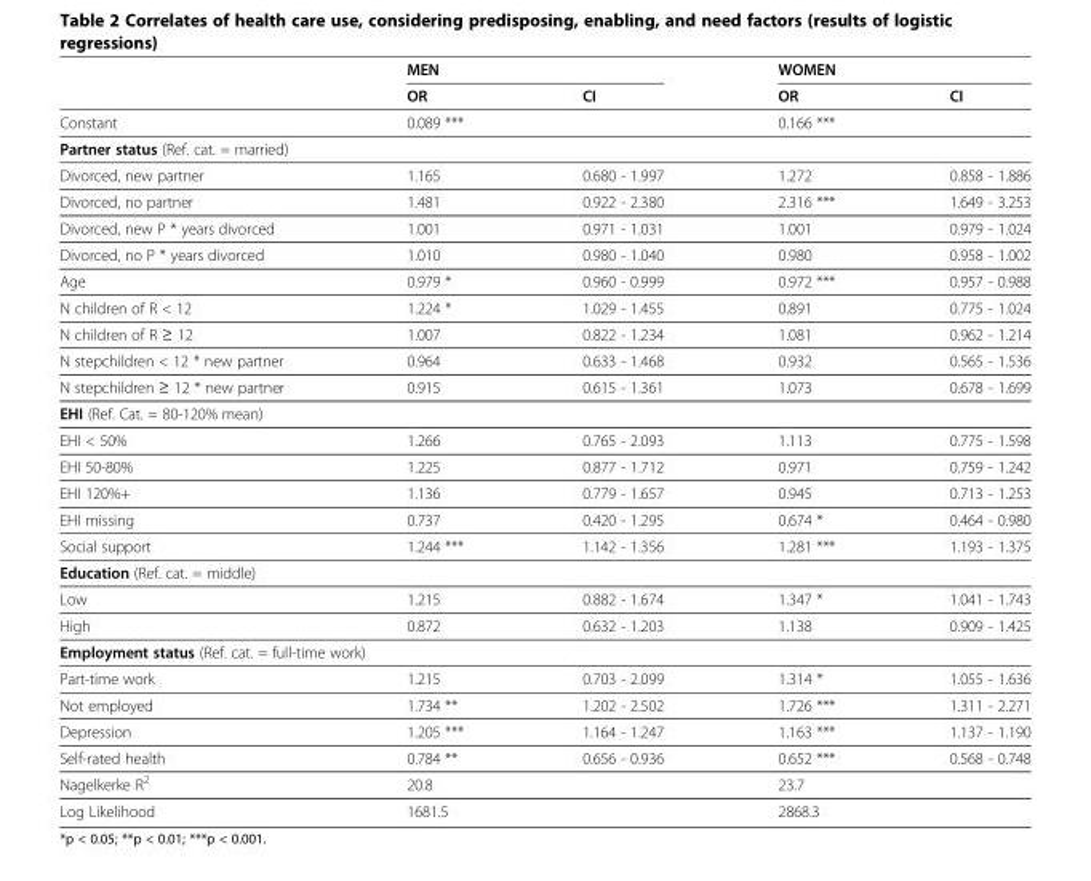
<table><thead><tr><td rowspan="2"></td><td colspan="2">MEN</td><td colspan="2">WOMEN</td></tr><tr><td>OR</td><td>CI</td><td>OR</td><td>CI</td></tr></thead><tbody><tr><td>Constant</td><td>0.089 ***</td><td></td><td>0.166 ***</td><td></td></tr><tr><td colspan="5">Partner status (Ref. cat. = married)</td></tr><tr><td>Divorced, new partner</td><td>1.165</td><td>0.680 - 1.997</td><td>1.272</td><td>0.858 - 1.886</td></tr><tr><td>Divorced, no partner</td><td>1.481</td><td>0.922 - 2.380</td><td>2.316 ***</td><td>1.649 - 3.253</td></tr><tr><td>Divorced, new P * years divorced</td><td>1.001</td><td>0.971 - 1.031</td><td>1.001</td><td>0.979 - 1.024</td></tr><tr><td>Divorced, no P * years divorced</td><td>1.010</td><td>0.980 - 1.040</td><td>0.980</td><td>0.958 - 1.002</td></tr><tr><td>Age</td><td>0.979 *</td><td>0.960 - 0.999</td><td>0.972 ***</td><td>0.957 - 0.988</td></tr><tr><td>N children of R &lt; 12</td><td>1.224 *</td><td>1.029 - 1.455</td><td>0.891</td><td>0.775 - 1.024</td></tr><tr><td>N children of R ≥ 12</td><td>1.007</td><td>0.822 - 1.234</td><td>1.081</td><td>0.962 - 1.214</td></tr><tr><td>N stepchildren &lt; 12 * new partner</td><td>0.964</td><td>0.633 - 1.468</td><td>0.932</td><td>0.565 - 1.536</td></tr><tr><td>N stepchildren ≥ 12 * new partner</td><td>0.915</td><td>0.615 - 1.361</td><td>1.073</td><td>0.678 - 1.699</td></tr><tr><td colspan="5">EHI (Ref. Cat. = 80-120% mean)</td></tr><tr><td>EHI &lt; 50%</td><td>1.266</td><td>0.765 - 2.093</td><td>1.113</td><td>0.775 - 1.598</td></tr><tr><td>EHI 50-80%</td><td>1.225</td><td>0.877 - 1.712</td><td>0.971</td><td>0.759 - 1.242</td></tr><tr><td>EHI 120%+</td><td>1.136</td><td>0.779 - 1.657</td><td>0.945</td><td>0.713 - 1.253</td></tr><tr><td>EHI missing</td><td>0.737</td><td>0.420 - 1.295</td><td>0.674 *</td><td>0.464 - 0.980</td></tr><tr><td>Social support</td><td>1.244 ***</td><td>1.142 - 1.356</td><td>1.281 ***</td><td>1.193 - 1.375</td></tr><tr><td colspan="5">Education (Ref. cat. = middle)</td></tr><tr><td>Low</td><td>1.215</td><td>0.882 - 1.674</td><td>1.347 *</td><td>1.041 - 1.743</td></tr><tr><td>High</td><td>0.872</td><td>0.632 - 1.203</td><td>1.138</td><td>0.909 - 1.425</td></tr><tr><td colspan="5">Employment status (Ref. cat. = full-time work)</td></tr><tr><td>Part-time work</td><td>1.215</td><td>0.703 - 2.099</td><td>1.314 *</td><td>1.055 - 1.636</td></tr><tr><td>Not employed</td><td>1.734 **</td><td>1.202 - 2.502</td><td>1.726 ***</td><td>1.311 - 2.271</td></tr><tr><td>Depression</td><td>1.205 ***</td><td>1.164 - 1.247</td><td>1.163 ***</td><td>1.137 - 1.190</td></tr><tr><td>Self-rated health</td><td>0.784 **</td><td>0.656 - 0.936</td><td>0.652 ***</td><td>0.568 - 0.748</td></tr><tr><td>Nagelkerke R<sup>2</sup></td><td>20.8</td><td></td><td>23.7</td><td></td></tr><tr><td>Log Likelihood</td><td>1681.5</td><td></td><td>2868.3</td><td></td></tr></tbody></table>